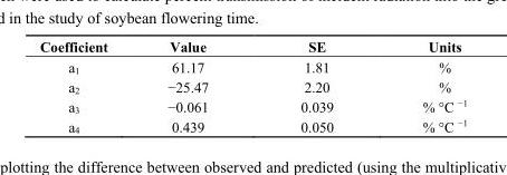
<table><thead><tr><td>Coefficient</td><td>Value</td><td>SE</td><td>Units</td></tr></thead><tbody><tr><td>a<sub>1</sub></td><td>61.17</td><td>1.81</td><td>%</td></tr><tr><td>a<sub>2</sub></td><td>−25.47</td><td>2.20</td><td>%</td></tr><tr><td>a<sub>3</sub></td><td>−0.061</td><td>0.039</td><td>% °C <sup>−1</sup></td></tr><tr><td>a<sub>4</sub></td><td>0.439</td><td>0.050</td><td>% °C <sup>−1</sup></td></tr></tbody></table>